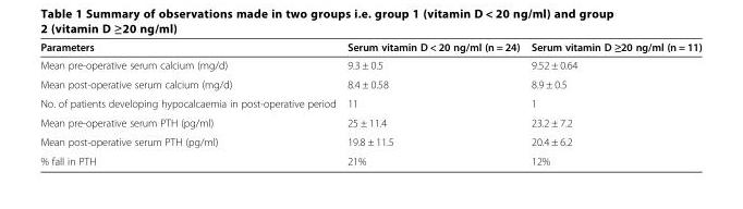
<table><thead><tr><td>Parameters</td><td>Serum vitamin D &lt; 20 ng/ml (n = 24)</td><td>Serum vitamin D ≥20 ng/ml (n = 11)</td></tr></thead><tbody><tr><td>Mean pre-operative serum calcium (mg/d)</td><td>9.3 ± 0.5</td><td>9.52 ± 0.64</td></tr><tr><td>Mean post-operative serum calcium (mg/d)</td><td>8.4 ± 0.58</td><td>8.9 ± 0.5</td></tr><tr><td>No. of patients developing hypocalcaemia in post-operative period</td><td>11</td><td>1</td></tr><tr><td>Mean pre-operative serum PTH (pg/ml)</td><td>25 ± 11.4</td><td>23.2 ± 7.2</td></tr><tr><td>Mean post-operative serum PTH (pg/ml)</td><td>19.8 ± 11.5</td><td>20.4 ± 6.2</td></tr><tr><td>% fall in PTH</td><td>21%</td><td>12%</td></tr></tbody></table>